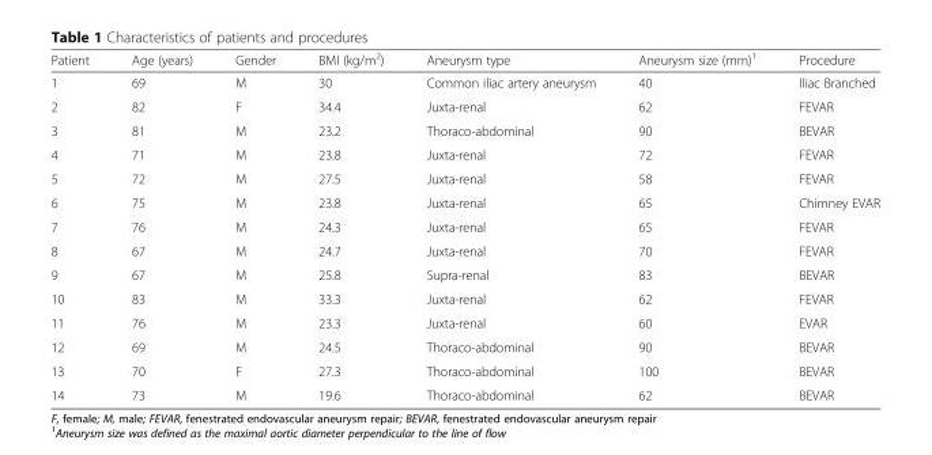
<table><thead><tr><td>Patient</td><td>Age (years)</td><td>Gender</td><td>BMI (kg/m<sup>2</sup>)</td><td>Aneurysm type</td><td>Aneurysm size (mm)<sup>1</sup></td><td>Procedure</td></tr></thead><tbody><tr><td>1</td><td>69</td><td>M</td><td>30</td><td>Common iliac artery aneurysm</td><td>40</td><td>Iliac Branched</td></tr><tr><td>2</td><td>82</td><td>F</td><td>34.4</td><td>Juxta-renal</td><td>62</td><td>FEVAR</td></tr><tr><td>3</td><td>81</td><td>M</td><td>23.2</td><td>Thoraco-abdominal</td><td>90</td><td>BEVAR</td></tr><tr><td>4</td><td>71</td><td>M</td><td>23.8</td><td>Juxta-renal</td><td>72</td><td>FEVAR</td></tr><tr><td>5</td><td>72</td><td>M</td><td>27.5</td><td>Juxta-renal</td><td>58</td><td>FEVAR</td></tr><tr><td>6</td><td>75</td><td>M</td><td>23.8</td><td>Juxta-renal</td><td>65</td><td>Chimney EVAR</td></tr><tr><td>7</td><td>76</td><td>M</td><td>24.3</td><td>Juxta-renal</td><td>65</td><td>FEVAR</td></tr><tr><td>8</td><td>67</td><td>M</td><td>24.7</td><td>Juxta-renal</td><td>70</td><td>FEVAR</td></tr><tr><td>9</td><td>67</td><td>M</td><td>25.8</td><td>Supra-renal</td><td>83</td><td>BEVAR</td></tr><tr><td>10</td><td>83</td><td>M</td><td>33.3</td><td>Juxta-renal</td><td>62</td><td>FEVAR</td></tr><tr><td>11</td><td>76</td><td>M</td><td>23.3</td><td>Juxta-renal</td><td>60</td><td>EVAR</td></tr><tr><td>12</td><td>69</td><td>M</td><td>24.5</td><td>Thoraco-abdominal</td><td>90</td><td>BEVAR</td></tr><tr><td>13</td><td>70</td><td>F</td><td>27.3</td><td>Thoraco-abdominal</td><td>100</td><td>BEVAR</td></tr><tr><td>14</td><td>73</td><td>M</td><td>19.6</td><td>Thoraco-abdominal</td><td>62</td><td>BEVAR</td></tr></tbody></table>